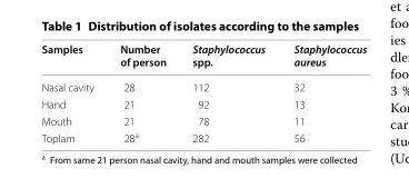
<table><thead><tr><td>Samples</td><td>Number of person</td><td>Staphylococcus spp.</td><td>Staphylococcus aureus</td></tr></thead><tbody><tr><td>Nasal cavity</td><td>28</td><td>112</td><td>32</td></tr><tr><td>Hand</td><td>21</td><td>92</td><td>13</td></tr><tr><td>Mouth</td><td>21</td><td>78</td><td>11</td></tr><tr><td>Toplam</td><td>28<sup>a</sup></td><td>282</td><td>56</td></tr></tbody></table>